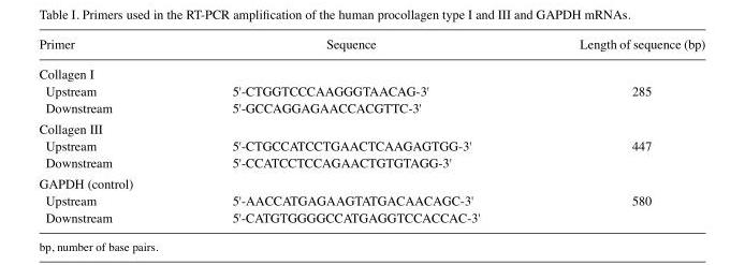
<table><thead><tr><td>Primer</td><td>Sequence</td><td>Length of sequence (bp)</td></tr></thead><tbody><tr><td colspan="3">Collagen I</td></tr><tr><td>Upstream</td><td>5&#x27;-CTGGTCCCAAGGGTAACAG-3&#x27;</td><td>285</td></tr><tr><td>Downstream</td><td>5&#x27;-GCCAGGAGAACCACGTTC-3&#x27;</td><td></td></tr><tr><td colspan="3">Collagen III</td></tr><tr><td>Upstream</td><td>5&#x27;-CTGCCATCCTGAACTCAAGAGTGG-3&#x27;</td><td>447</td></tr><tr><td>Downstream</td><td>5&#x27;-CCATCCTCCAGAACTGTGTAGG-3&#x27;</td><td></td></tr><tr><td colspan="3">GAPDH (control)</td></tr><tr><td>Upstream</td><td>5&#x27;-AACCATGAGAAGTATGACAACAGC-3&#x27;</td><td>580</td></tr><tr><td>Downstream</td><td>5&#x27;-CATGTGGGGCCATGAGGTCCACCAC-3&#x27;</td><td></td></tr></tbody></table>